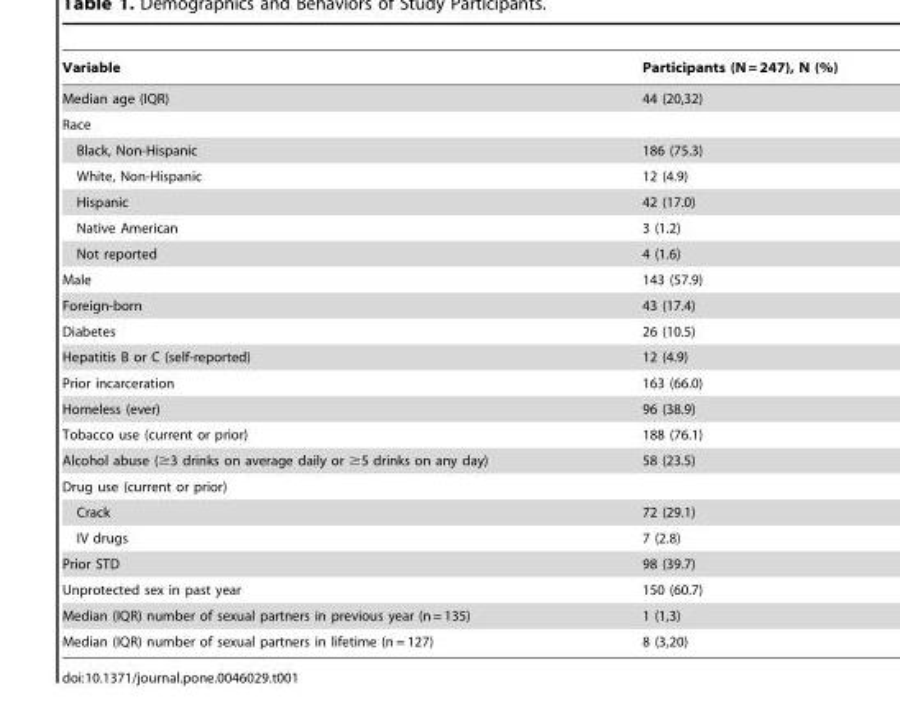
<table><thead><tr><td>Variable</td><td>Participants (N = 247), N (%)</td></tr></thead><tbody><tr><td>Median age (IQR)</td><td>44 (20,32)</td></tr><tr><td colspan="2">Race</td></tr><tr><td>Black, Non-Hispanic</td><td>186 (75.3)</td></tr><tr><td>White, Non-Hispanic</td><td>12 (4.9)</td></tr><tr><td>Hispanic</td><td>42 (17.0)</td></tr><tr><td>Native American</td><td>3 (1.2)</td></tr><tr><td>Not reported</td><td>4 (1.6)</td></tr><tr><td>Male</td><td>143 (57.9)</td></tr><tr><td>Foreign-born</td><td>43 (17.4)</td></tr><tr><td>Diabetes</td><td>26 (10.5)</td></tr><tr><td>Hepatitis B or C (self-reported)</td><td>12 (4.9)</td></tr><tr><td>Prior incarceration</td><td>163 (66.0)</td></tr><tr><td>Homeless (ever)</td><td>96 (38.9)</td></tr><tr><td>Tobacco use (current or prior)</td><td>188 (76.1)</td></tr><tr><td>Alcohol abuse (≥3 drinks on average daily or ≥5 drinks on any day)</td><td>58 (23.5)</td></tr><tr><td colspan="2">Drug use (current or prior)</td></tr><tr><td>Crack</td><td>72 (29.1)</td></tr><tr><td>IV drugs</td><td>7 (2.8)</td></tr><tr><td>Prior STD</td><td>98 (39.7)</td></tr><tr><td>Unprotected sex in past year</td><td>150 (60.7)</td></tr><tr><td>Median (IQR) number of sexual partners in previous year (n = 135)</td><td>1 (1,3)</td></tr><tr><td>Median (IQR) number of sexual partners in lifetime (n = 127)</td><td>8 (3,20)</td></tr></tbody></table>